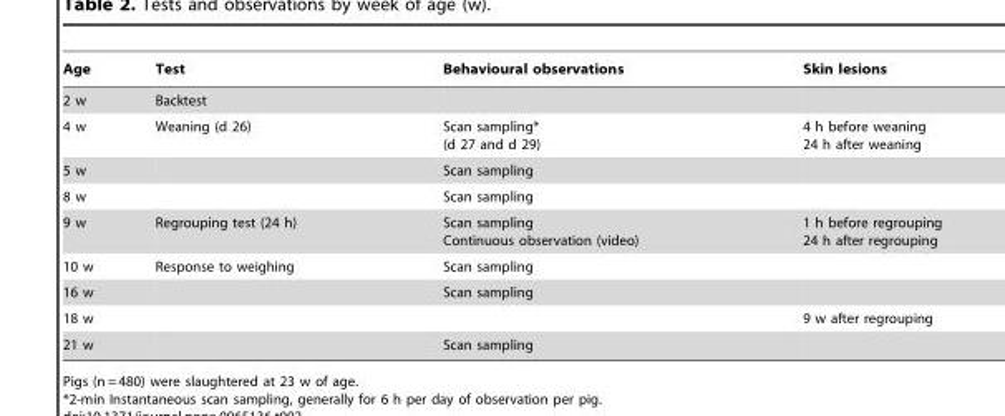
<table><thead><tr><td>Age</td><td>Test</td><td>Behavioural observations</td><td>Skin lesions</td></tr></thead><tbody><tr><td>2 w</td><td>Backtest</td><td></td><td></td></tr><tr><td>4 w</td><td>Weaning (d 26)</td><td>Scan sampling* (d 27 and d 29)</td><td>4 h before weaning 24 h after weaning</td></tr><tr><td>5 w</td><td></td><td>Scan sampling</td><td></td></tr><tr><td>8 w</td><td></td><td>Scan sampling</td><td></td></tr><tr><td>9 w</td><td>Regrouping test (24 h)</td><td>Scan sampling Continuous observation (video)</td><td>1 h before regrouping 24 h after regrouping</td></tr><tr><td>10 w</td><td>Response to weighing</td><td>Scan sampling</td><td></td></tr><tr><td>16 w</td><td></td><td>Scan sampling</td><td></td></tr><tr><td>18 w</td><td></td><td></td><td>9 w after regrouping</td></tr><tr><td>21 w</td><td></td><td>Scan sampling</td><td></td></tr></tbody></table>